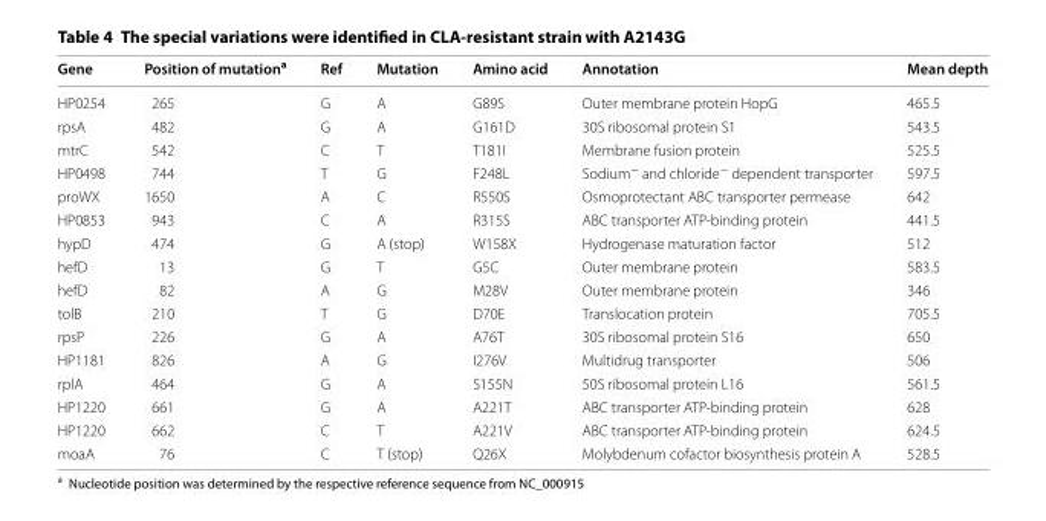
<table><thead><tr><td>Gene</td><td>Position of mutation<sup>a</sup></td><td>Ref</td><td>Mutation</td><td>Amino acid</td><td>Annotation</td><td>Mean depth</td></tr></thead><tbody><tr><td>HP0254</td><td>265</td><td>G</td><td>A</td><td>G89S</td><td>Outer membrane protein HopG</td><td>465.5</td></tr><tr><td>rpsA</td><td>482</td><td>G</td><td>A</td><td>G161D</td><td>30S ribosomal protein S1</td><td>543.5</td></tr><tr><td>mtrC</td><td>542</td><td>C</td><td>T</td><td>T181I</td><td>Membrane fusion protein</td><td>525.5</td></tr><tr><td>HP0498</td><td>744</td><td>T</td><td>G</td><td>F248L</td><td>Sodium<sup>−</sup> and chloride<sup>−</sup> dependent transporter</td><td>597.5</td></tr><tr><td>proWX</td><td>1650</td><td>A</td><td>C</td><td>R550S</td><td>Osmoprotectant ABC transporter permease</td><td>642</td></tr><tr><td>HP0853</td><td>943</td><td>C</td><td>A</td><td>R315S</td><td>ABC transporter ATP-binding protein</td><td>441.5</td></tr><tr><td>hypD</td><td>474</td><td>G</td><td>A (stop)</td><td>W158X</td><td>Hydrogenase maturation factor</td><td>512</td></tr><tr><td>hefD</td><td>13</td><td>G</td><td>T</td><td>G5C</td><td>Outer membrane protein</td><td>583.5</td></tr><tr><td>hefD</td><td>82</td><td>A</td><td>G</td><td>M28V</td><td>Outer membrane protein</td><td>346</td></tr><tr><td>tolB</td><td>210</td><td>T</td><td>G</td><td>D70E</td><td>Translocation protein</td><td>705.5</td></tr><tr><td>rpsP</td><td>226</td><td>G</td><td>A</td><td>A76T</td><td>30S ribosomal protein S16</td><td>650</td></tr><tr><td>HP1181</td><td>826</td><td>A</td><td>G</td><td>I276V</td><td>Multidrug transporter</td><td>506</td></tr><tr><td>rplA</td><td>464</td><td>G</td><td>A</td><td>S155N</td><td>50S ribosomal protein L16</td><td>561.5</td></tr><tr><td>HP1220</td><td>661</td><td>G</td><td>A</td><td>A221T</td><td>ABC transporter ATP-binding protein</td><td>628</td></tr><tr><td>HP1220</td><td>662</td><td>C</td><td>T</td><td>A221V</td><td>ABC transporter ATP-binding protein</td><td>624.5</td></tr><tr><td>moaA</td><td>76</td><td>C</td><td>T (stop)</td><td>Q26X</td><td>Molybdenum cofactor biosynthesis protein A</td><td>528.5</td></tr></tbody></table>